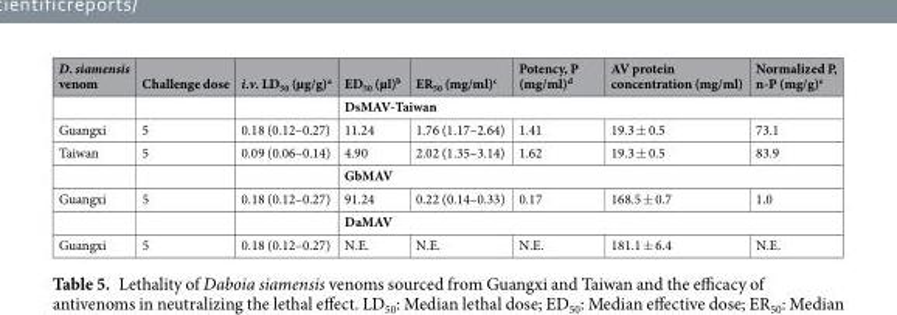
<table><thead><tr><td>D. siamensis venom</td><td>Challenge dose</td><td>i.v. LD<sub>50</sub> (µg/g)<sup>a</sup></td><td>ED<sub>50</sub> (µl)<sup>b</sup></td><td>ER<sub>50</sub> (mg/ml)<sup>c</sup></td><td>Potency, P (mg/ml)<sup>d</sup></td><td>AV protein concentration (mg/ml)</td><td>Normalized P, n-P (mg/g)<sup>e</sup></td></tr></thead><tbody><tr><td></td><td></td><td></td><td colspan="5">DsMAV-Taiwan</td></tr><tr><td>Guangxi</td><td>5</td><td>0.18 (0.12–0.27)</td><td>11.24</td><td>1.76 (1.17–2.64)</td><td>1.41</td><td>19.3 ± 0.5</td><td>73.1</td></tr><tr><td rowspan="2">Taiwan</td><td>5</td><td>0.09 (0.06–0.14)</td><td>4.90</td><td>2.02 (1.35–3.14)</td><td>1.62</td><td>19.3 ± 0.5</td><td>83.9</td></tr><tr><td></td><td></td><td colspan="5">GbMAV</td></tr><tr><td rowspan="2">Guangxi</td><td>5</td><td>0.18 (0.12–0.27)</td><td>91.24</td><td>0.22 (0.14–0.33)</td><td>0.17</td><td>168.5 ± 0.7</td><td>1.0</td></tr><tr><td></td><td></td><td colspan="5">DaMAV</td></tr><tr><td>Guangxi</td><td>5</td><td>0.18 (0.12–0.27)</td><td>N.E.</td><td>N.E.</td><td>N.E.</td><td>181.1 ± 6.4</td><td>N.E.</td></tr></tbody></table>